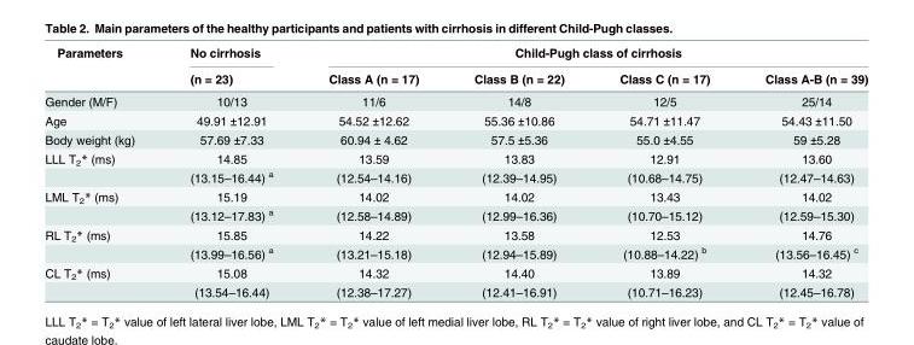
<table><thead><tr><td rowspan="2">Parameters</td><td rowspan="2">No cirrhosis (n = 23)</td><td colspan="4">Child-Pugh class of cirrhosis</td></tr><tr><td>Class A (n = 17)</td><td>Class B (n = 22)</td><td>Class C (n = 17)</td><td>Class A-B (n = 39)</td></tr></thead><tbody><tr><td>Gender (M/F)</td><td>10/13</td><td>11/6</td><td>14/8</td><td>12/5</td><td>25/14</td></tr><tr><td>Age</td><td>49.91 ±12.91</td><td>54.52 ±12.62</td><td>55.36 ±10.86</td><td>54.71 ±11.47</td><td>54.43 ±11.50</td></tr><tr><td>Body weight (kg)</td><td>57.69 ±7.33</td><td>60.94 ± 4.62</td><td>57.5 ±5.36</td><td>55.0 ±4.55</td><td>59 ±5.28</td></tr><tr><td rowspan="2">LLL T<sub>2</sub>* (ms)</td><td>14.85</td><td>13.59</td><td>13.83</td><td>12.91</td><td>13.60</td></tr><tr><td>(13.15–16.44) <sup>a</sup></td><td>(12.54–14.16)</td><td>(12.39–14.95)</td><td>(10.68–14.75)</td><td>(12.47–14.63)</td></tr><tr><td rowspan="2">LML T<sub>2</sub>* (ms)</td><td>15.19</td><td>14.02</td><td>14.02</td><td>13.43</td><td>14.02</td></tr><tr><td>(13.12–17.83) <sup>a</sup></td><td>(12.58–14.89)</td><td>(12.99–16.36)</td><td>(10.70–15.12)</td><td>(12.59–15.30)</td></tr><tr><td rowspan="2">RL T<sub>2</sub>* (ms)</td><td>15.85</td><td>14.22</td><td>13.58</td><td>12.53</td><td>14.76</td></tr><tr><td>(13.99–16.56) <sup>a</sup></td><td>(13.21–15.18)</td><td>(12.94–15.89)</td><td>(10.88–14.22) <sup>b</sup></td><td>(13.56–16.45) <sup>c</sup></td></tr><tr><td rowspan="2">CL T<sub>2</sub>* (ms)</td><td>15.08</td><td>14.32</td><td>14.40</td><td>13.89</td><td>14.32</td></tr><tr><td>(13.54–16.44)</td><td>(12.38–17.27)</td><td>(12.41–16.91)</td><td>(10.71–16.23)</td><td>(12.45–16.78)</td></tr></tbody></table>